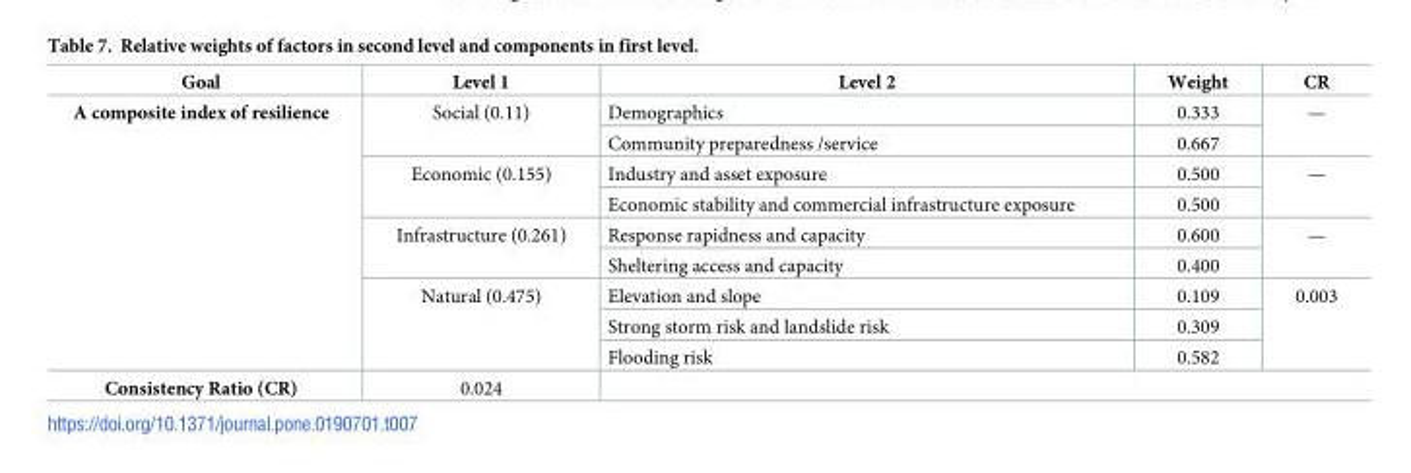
<table><thead><tr><td>Goal</td><td>Level 1</td><td>Level 2</td><td>Weight</td><td>CR</td></tr></thead><tbody><tr><td rowspan="9">A composite index of resilience</td><td rowspan="2">Social (0.11)</td><td>Demographics</td><td>0.333</td><td rowspan="2">—</td></tr><tr><td>Community preparedness /service</td><td>0.667</td></tr><tr><td rowspan="2">Economic (0.155)</td><td>Industry and asset exposure</td><td>0.500</td><td rowspan="2">—</td></tr><tr><td>Economic stability and commercial infrastructure exposure</td><td>0.500</td></tr><tr><td rowspan="2">Infrastructure (0.261)</td><td>Response rapidness and capacity</td><td>0.600</td><td rowspan="2">—</td></tr><tr><td>Sheltering access and capacity</td><td>0.400</td></tr><tr><td rowspan="3">Natural (0.475)</td><td>Elevation and slope</td><td>0.109</td><td rowspan="3">0.003</td></tr><tr><td>Strong storm risk and landslide risk</td><td>0.309</td></tr><tr><td>Flooding risk</td><td>0.582</td></tr><tr><td>Consistency Ratio (CR)</td><td>0.024</td><td colspan="3"></td></tr></tbody></table>